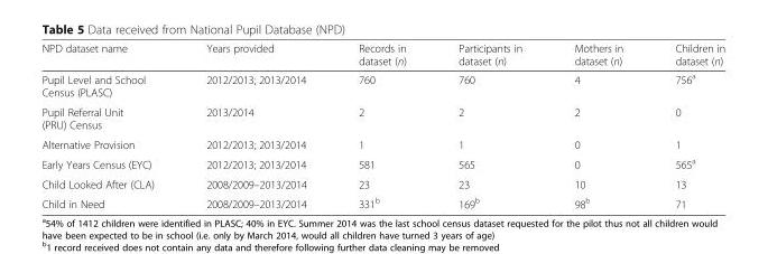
<table><thead><tr><td>NPD dataset name</td><td>Years provided</td><td>Records in dataset (n)</td><td>Participants in dataset (n)</td><td>Mothers in dataset (n)</td><td>Children in dataset (n)</td></tr></thead><tbody><tr><td>Pupil Level and School Census (PLASC)</td><td>2012/2013; 2013/2014</td><td>760</td><td>760</td><td>4</td><td>756<sup>a</sup></td></tr><tr><td>Pupil Referral Unit (PRU) Census</td><td>2013/2014</td><td>2</td><td>2</td><td>2</td><td>0</td></tr><tr><td>Alternative Provision</td><td>2012/2013; 2013/2014</td><td>1</td><td>1</td><td>0</td><td>1</td></tr><tr><td>Early Years Census (EYC)</td><td>2012/2013; 2013/2014</td><td>581</td><td>565</td><td>0</td><td>565<sup>a</sup></td></tr><tr><td>Child Looked After (CLA)</td><td>2008/2009–2013/2014</td><td>23</td><td>23</td><td>10</td><td>13</td></tr><tr><td>Child in Need</td><td>2008/2009–2013/2014</td><td>331<sup>b</sup></td><td>169<sup>b</sup></td><td>98<sup>b</sup></td><td>71</td></tr></tbody></table>